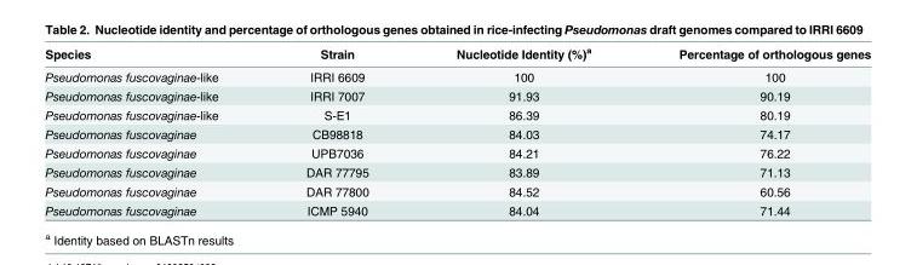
<table><thead><tr><td>Species</td><td>Strain</td><td>Nucleotide Identity (%)<sup>a</sup></td><td>Percentage of orthologous genes</td></tr></thead><tbody><tr><td>Pseudomonas fuscovaginae-like</td><td>IRRI 6609</td><td>100</td><td>100</td></tr><tr><td>Pseudomonas fuscovaginae-like</td><td>IRRI 7007</td><td>91.93</td><td>90.19</td></tr><tr><td>Pseudomonas fuscovaginae-like</td><td>S-E1</td><td>86.39</td><td>80.19</td></tr><tr><td>Pseudomonas fuscovaginae</td><td>CB98818</td><td>84.03</td><td>74.17</td></tr><tr><td>Pseudomonas fuscovaginae</td><td>UPB7036</td><td>84.21</td><td>76.22</td></tr><tr><td>Pseudomonas fuscovaginae</td><td>DAR 77795</td><td>83.89</td><td>71.13</td></tr><tr><td>Pseudomonas fuscovaginae</td><td>DAR 77800</td><td>84.52</td><td>60.56</td></tr><tr><td>Pseudomonas fuscovaginae</td><td>ICMP 5940</td><td>84.04</td><td>71.44</td></tr></tbody></table>